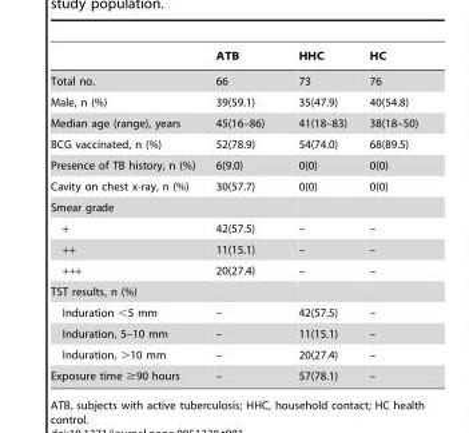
<table><thead><tr><td></td><td>ATB</td><td>HHC</td><td>HC</td></tr></thead><tbody><tr><td>Total no.</td><td>66</td><td>73</td><td>76</td></tr><tr><td>Male, n (%)</td><td>39(59.1)</td><td>35(47.9)</td><td>40(54.8)</td></tr><tr><td>Median age (range), years</td><td>45(16–86)</td><td>41(18–83)</td><td>38(18–50)</td></tr><tr><td>BCG vaccinated, n (%)</td><td>52(78.9)</td><td>54(74.0)</td><td>68(89.5)</td></tr><tr><td>Presence of TB history, n (%)</td><td>6(9.0)</td><td>0(0)</td><td>0(0)</td></tr><tr><td>Cavity on chest x-ray, n (%)</td><td>30(57.7)</td><td>0(0)</td><td>0(0)</td></tr><tr><td colspan="4">Smear grade</td></tr><tr><td>+</td><td>42(57.5)</td><td>–</td><td>–</td></tr><tr><td>++</td><td>11(15.1)</td><td>–</td><td>–</td></tr><tr><td>+++</td><td>20(27.4)</td><td>–</td><td>–</td></tr><tr><td colspan="4">TST results, n (%)</td></tr><tr><td>Induration &lt;5 mm</td><td>–</td><td>42(57.5)</td><td>–</td></tr><tr><td>Induration, 5–10 mm</td><td>–</td><td>11(15.1)</td><td>–</td></tr><tr><td>Induration, &gt;10 mm</td><td>–</td><td>20(27.4)</td><td>–</td></tr><tr><td>Exposure time ≥90 hours</td><td>–</td><td>57(78.1)</td><td>–</td></tr></tbody></table>